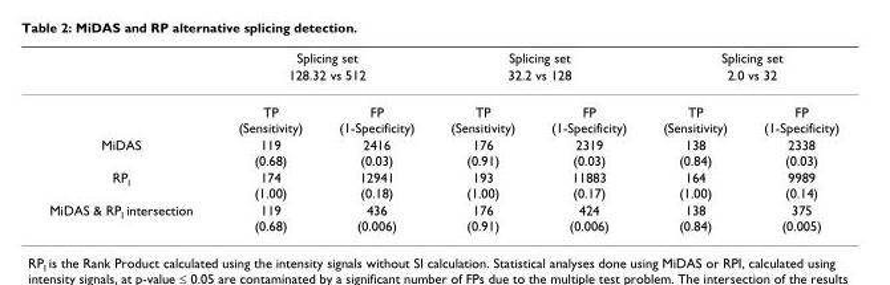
<table><thead><tr><td rowspan="3"></td><td rowspan="2" colspan="2">Splicing set 128.32 vs 512</td><td rowspan="2" colspan="2">Splicing set 32.2 vs 128</td><td rowspan="2" colspan="2">Splicing set 2.0 vs 32</td></tr><tr></tr><tr><td>TP (Sensitivity)</td><td>FP (1-Specificity)</td><td>TP (Sensitivity)</td><td>FP (1-Specificity)</td><td>TP (Sensitivity)</td><td>FP (1-Specificity)</td></tr></thead><tbody><tr><td>MiDAS</td><td>119 (0.68)</td><td>2416 (0.03)</td><td>176 (0.91)</td><td>2319 (0.03)</td><td>138 (0.84)</td><td>2338 (0.03)</td></tr><tr><td>RP<sub>I</sub></td><td>174 (1.00)</td><td>12941 (0.18)</td><td>193 (1.00)</td><td>11883 (0.17)</td><td>164 (1.00)</td><td>9989 (0.14)</td></tr><tr><td>MiDAS &amp; RP<sub>I</sub> intersection</td><td>119 (0.68)</td><td>436 (0.006)</td><td>176 (0.91)</td><td>424 (0.006)</td><td>138 (0.84)</td><td>375 (0.005)</td></tr></tbody></table>